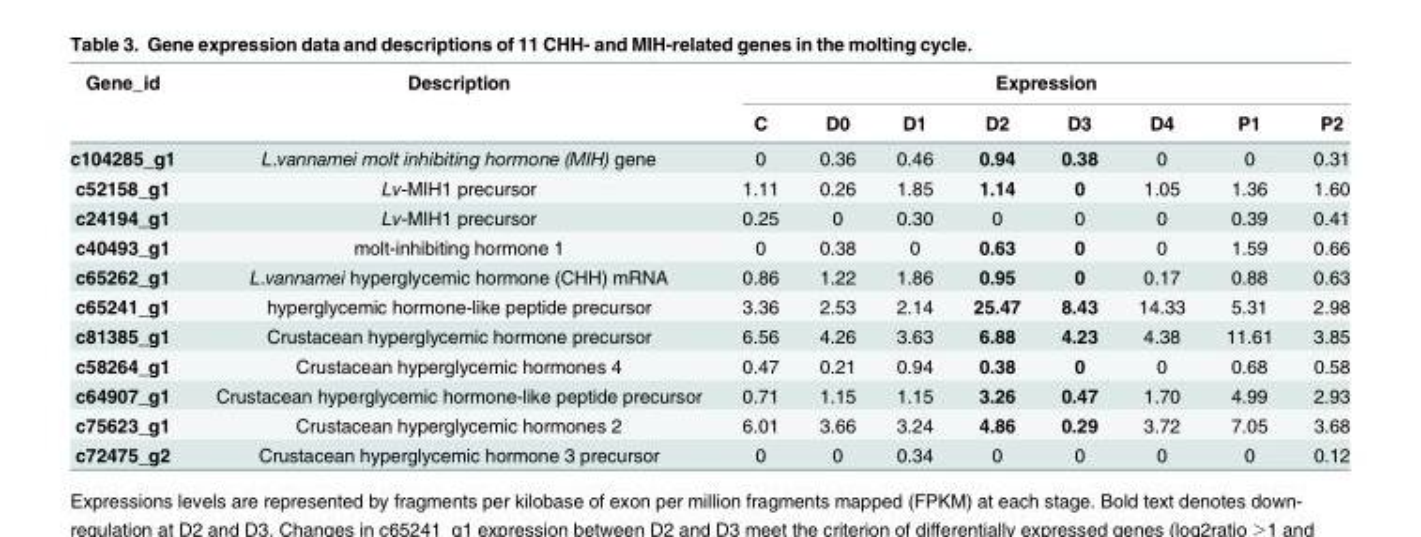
<table><thead><tr><td rowspan="2">Gene_id</td><td rowspan="2">Description</td><td colspan="8">Expression</td></tr><tr><td>C</td><td>D0</td><td>D1</td><td>D2</td><td>D3</td><td>D4</td><td>P1</td><td>P2</td></tr></thead><tbody><tr><td>c104285_g1</td><td>L.vannamei molt inhibiting hormone (MIH) gene</td><td>0</td><td>0.36</td><td>0.46</td><td>0.94</td><td>0.38</td><td>0</td><td>0</td><td>0.31</td></tr><tr><td>c52158_g1</td><td>Lv-MIH1 precursor</td><td>1.11</td><td>0.26</td><td>1.85</td><td>1.14</td><td>0</td><td>1.05</td><td>1.36</td><td>1.60</td></tr><tr><td>c24194_g1</td><td>Lv-MIH1 precursor</td><td>0.25</td><td>0</td><td>0.30</td><td>0</td><td>0</td><td>0</td><td>0.39</td><td>0.41</td></tr><tr><td>c40493_g1</td><td>molt-inhibiting hormone 1</td><td>0</td><td>0.38</td><td>0</td><td>0.63</td><td>0</td><td>0</td><td>1.59</td><td>0.66</td></tr><tr><td>c65262_g1</td><td>L.vannamei hyperglycemic hormone (CHH) mRNA</td><td>0.86</td><td>1.22</td><td>1.86</td><td>0.95</td><td>0</td><td>0.17</td><td>0.88</td><td>0.63</td></tr><tr><td>c65241_g1</td><td>hyperglycemic hormone-like peptide precursor</td><td>3.36</td><td>2.53</td><td>2.14</td><td>25.47</td><td>8.43</td><td>14.33</td><td>5.31</td><td>2.98</td></tr><tr><td>c81385_g1</td><td>Crustacean hyperglycemic hormone precursor</td><td>6.56</td><td>4.26</td><td>3.63</td><td>6.88</td><td>4.23</td><td>4.38</td><td>11.61</td><td>3.85</td></tr><tr><td>c58264_g1</td><td>Crustacean hyperglycemic hormones 4</td><td>0.47</td><td>0.21</td><td>0.94</td><td>0.38</td><td>0</td><td>0</td><td>0.68</td><td>0.58</td></tr><tr><td>c64907_g1</td><td>Crustacean hyperglycemic hormone-like peptide precursor</td><td>0.71</td><td>1.15</td><td>1.15</td><td>3.26</td><td>0.47</td><td>1.70</td><td>4.99</td><td>2.93</td></tr><tr><td>c75623_g1</td><td>Crustacean hyperglycemic hormones 2</td><td>6.01</td><td>3.66</td><td>3.24</td><td>4.86</td><td>0.29</td><td>3.72</td><td>7.05</td><td>3.68</td></tr><tr><td>c72475_g2</td><td>Crustacean hyperglycemic hormone 3 precursor</td><td>0</td><td>0</td><td>0.34</td><td>0</td><td>0</td><td>0</td><td>0</td><td>0.12</td></tr></tbody></table>